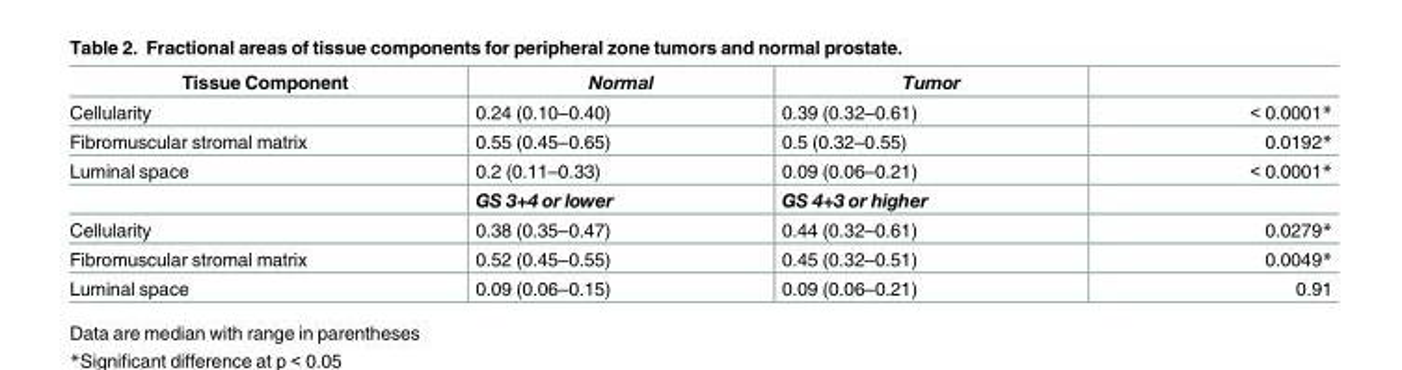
<table><thead><tr><td>Tissue Component</td><td>Normal</td><td>Tumor</td><td></td></tr></thead><tbody><tr><td>Cellularity</td><td>0.24 (0.10–0.40)</td><td>0.39 (0.32–0.61)</td><td>&lt; 0.0001*</td></tr><tr><td>Fibromuscular stromal matrix</td><td>0.55 (0.45–0.65)</td><td>0.5 (0.32–0.55)</td><td>0.0192*</td></tr><tr><td rowspan="2">Luminal space</td><td>0.2 (0.11–0.33)</td><td>0.09 (0.06–0.21)</td><td>&lt; 0.0001*</td></tr><tr><td>GS 3+4 or lower</td><td>GS 4+3 or higher</td><td></td></tr><tr><td>Cellularity</td><td>0.38 (0.35–0.47)</td><td>0.44 (0.32–0.61)</td><td>0.0279*</td></tr><tr><td>Fibromuscular stromal matrix</td><td>0.52 (0.45–0.55)</td><td>0.45 (0.32–0.51)</td><td>0.0049*</td></tr><tr><td>Luminal space</td><td>0.09 (0.06–0.15)</td><td>0.09 (0.06–0.21)</td><td>0.91</td></tr></tbody></table>